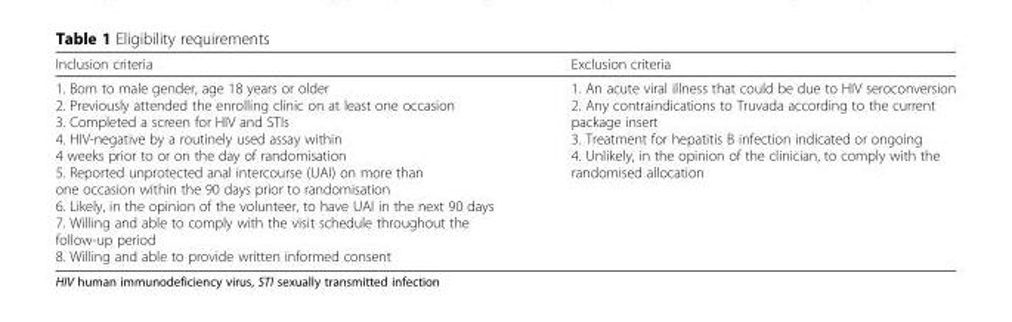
<table><thead><tr><td>Inclusion criteria</td><td>Exclusion criteria</td></tr></thead><tbody><tr><td>1. Born to male gender, age 18 years or older 2. Previously attended the enrolling clinic on at least one occasion 3. Completed a screen for HIV and STIs 4. HIV-negative by a routinely used assay within 4 weeks prior to or on the day of randomisation 5. Reported unprotected anal intercourse (UAI) on more than one occasion within the 90 days prior to randomisation 6. Likely, in the opinion of the volunteer, to have UAI in the next 90 days 7. Willing and able to comply with the visit schedule throughout the follow-up period 8. Willing and able to provide written informed consent</td><td>1. An acute viral illness that could be due to HIV seroconversion 2. Any contraindications to Truvada according to the current package insert 3. Treatment for hepatitis B infection indicated or ongoing 4. Unlikely, in the opinion of the clinician, to comply with the randomised allocation</td></tr></tbody></table>